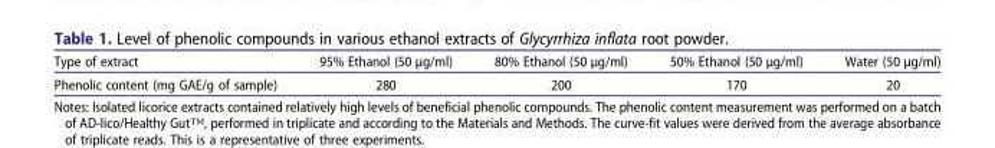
<table><thead><tr><td>Type of extract</td><td>95% Ethanol (50 µg/ml)</td><td>80% Ethanol (50 µg/ml)</td><td>50% Ethanol (50 µg/ml)</td><td>Water (50 µg/ml)</td></tr></thead><tbody><tr><td>Phenolic content (mg GAE/g of sample)</td><td>280</td><td>200</td><td>170</td><td>20</td></tr></tbody></table>